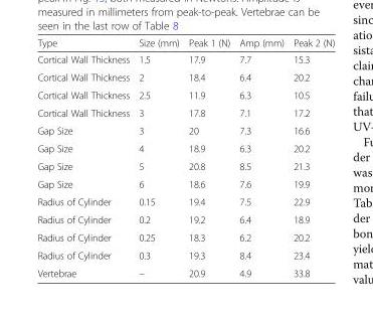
<table><thead><tr><td>Type</td><td>Size (mm)</td><td>Peak 1 (N)</td><td>Amp (mm)</td><td>Peak 2 (N)</td></tr></thead><tbody><tr><td>Cortical Wall Thickness</td><td>1.5</td><td>17.9</td><td>7.7</td><td>15.3</td></tr><tr><td>Cortical Wall Thickness</td><td>2</td><td>18.4</td><td>6.4</td><td>20.2</td></tr><tr><td>Cortical Wall Thickness</td><td>2.5</td><td>11.9</td><td>6.3</td><td>10.5</td></tr><tr><td>Cortical Wall Thickness</td><td>3</td><td>17.8</td><td>7.1</td><td>17.2</td></tr><tr><td>Gap Size</td><td>3</td><td>20</td><td>7.3</td><td>16.6</td></tr><tr><td>Gap Size</td><td>4</td><td>18.9</td><td>6.3</td><td>20.2</td></tr><tr><td>Gap Size</td><td>5</td><td>20.8</td><td>8.5</td><td>21.3</td></tr><tr><td>Gap Size</td><td>6</td><td>18.6</td><td>7.6</td><td>19.9</td></tr><tr><td>Radius of Cylinder</td><td>0.15</td><td>19.4</td><td>7.5</td><td>22.9</td></tr><tr><td>Radius of Cylinder</td><td>0.2</td><td>19.2</td><td>6.4</td><td>18.9</td></tr><tr><td>Radius of Cylinder</td><td>0.25</td><td>18.3</td><td>6.2</td><td>20.2</td></tr><tr><td>Radius of Cylinder</td><td>0.3</td><td>19.3</td><td>8.4</td><td>23.4</td></tr><tr><td>Vertebrae</td><td>–</td><td>20.9</td><td>4.9</td><td>33.8</td></tr></tbody></table>